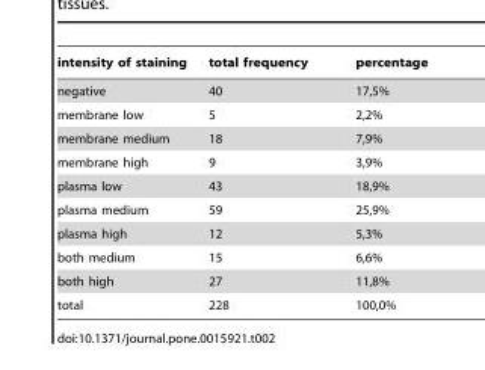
<table><thead><tr><td>intensity of staining</td><td>total frequency</td><td>percentage</td></tr></thead><tbody><tr><td>negative</td><td>40</td><td>17,5%</td></tr><tr><td>membrane low</td><td>5</td><td>2,2%</td></tr><tr><td>membrane medium</td><td>18</td><td>7,9%</td></tr><tr><td>membrane high</td><td>9</td><td>3,9%</td></tr><tr><td>plasma low</td><td>43</td><td>18,9%</td></tr><tr><td>plasma medium</td><td>59</td><td>25,9%</td></tr><tr><td>plasma high</td><td>12</td><td>5,3%</td></tr><tr><td>both medium</td><td>15</td><td>6,6%</td></tr><tr><td>both high</td><td>27</td><td>11,8%</td></tr><tr><td>total</td><td>228</td><td>100,0%</td></tr></tbody></table>